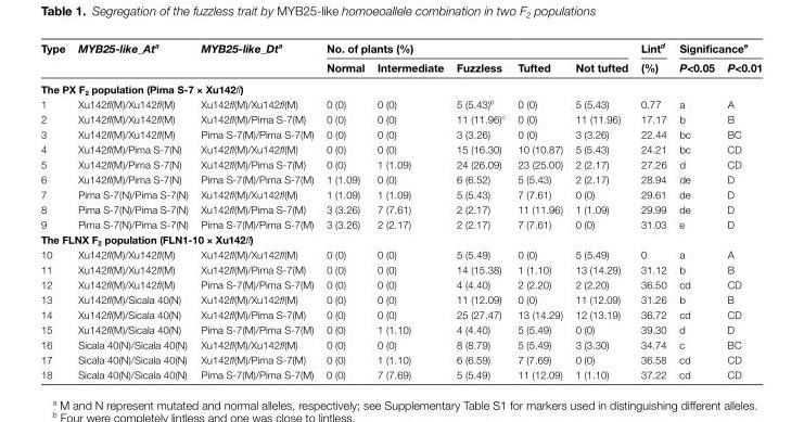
<table><thead><tr><td rowspan="2">Type</td><td rowspan="2">MYB25-like_At<sup>a</sup></td><td rowspan="2">MYB25-like_Dt<sup>a</sup></td><td colspan="5">No. of plants (%)</td><td rowspan="2">Lint<sup>d</sup> (%)</td><td colspan="2">Significance<sup>e</sup></td></tr><tr><td>Normal</td><td>Intermediate</td><td>Fuzzless</td><td>Tufted</td><td>Not tufted</td><td>P&lt;0.05</td><td>P&lt;0.01</td></tr></thead><tbody><tr><td colspan="11">The PX F<sub>2</sub> population (Pima S-7 × Xu142fl)</td></tr><tr><td>1</td><td>Xu142fl(M)/Xu142fl(M)</td><td>Xu142fl(M)/Xu142fl(M)</td><td>0 (0)</td><td>0 (0)</td><td>5 (5.43)<sup>b</sup></td><td>0 (0)</td><td>5 (5.43)</td><td>0.77</td><td>a</td><td>A</td></tr><tr><td>2</td><td>Xu142fl(M)/Xu142fl(M)</td><td>Xu142fl(M)/Pima S-7(M)</td><td>0 (0)</td><td>0 (0)</td><td>11 (11.96)<sup>c</sup></td><td>0 (0)</td><td>11 (11.96)</td><td>17.17</td><td>b</td><td>B</td></tr><tr><td>3</td><td>Xu142fl(M)/Xu142fl(M)</td><td>Pima S-7(M)/Pima S-7(M)</td><td>0 (0)</td><td>0 (0)</td><td>3 (3.26)</td><td>0 (0)</td><td>3 (3.26)</td><td>22.44</td><td>bc</td><td>BC</td></tr><tr><td>4</td><td>Xu142fl(M)/Pima S-7(N)</td><td>Xu142fl(M)/Xu142fl(M)</td><td>0 (0)</td><td>0 (0)</td><td>15 (16.30)</td><td>10 (10.87)</td><td>5 (5.43)</td><td>24.21</td><td>bc</td><td>CD</td></tr><tr><td>5</td><td>Xu142fl(M)/Pima S-7(N)</td><td>Xu142fl(M)/Pima S-7(M)</td><td>0 (0)</td><td>1 (1.09)</td><td>24 (26.09)</td><td>23 (25.00)</td><td>2 (2.17)</td><td>27.26</td><td>d</td><td>CD</td></tr><tr><td>6</td><td>Xu142fl(M)/Pima S-7(N)</td><td>Pima S-7(M)/Pima S-7(M)</td><td>1 (1.09)</td><td>0 (0)</td><td>6 (6.52)</td><td>5 (5.43)</td><td>2 (2.17)</td><td>28.94</td><td>de</td><td>D</td></tr><tr><td>7</td><td>Pima S-7(N)/Pima S-7(N)</td><td>Xu142fl(M)/Xu142fl(M)</td><td>1 (1.09)</td><td>1 (1.09)</td><td>5 (5.43)</td><td>7 (7.61)</td><td>0 (0)</td><td>29.61</td><td>de</td><td>D</td></tr><tr><td>8</td><td>Pima S-7(N)/Pima S-7(N)</td><td>Xu142fl(M)/Pima S-7(M)</td><td>3 (3.26)</td><td>7 (7.61)</td><td>2 (2.17)</td><td>11 (11.96)</td><td>1 (1.09)</td><td>29.99</td><td>de</td><td>D</td></tr><tr><td>9</td><td>Pima S-7(N)/Pima S-7(N)</td><td>Pima S-7(M)/Pima S-7(M)</td><td>3 (3.26)</td><td>2 (2.17)</td><td>2 (2.17)</td><td>7 (7.61)</td><td>0 (0)</td><td>31.03</td><td>e</td><td>D</td></tr><tr><td colspan="11">The FLNX F<sub>2</sub> population (FLN1-10 × Xu142fl)</td></tr><tr><td>10</td><td>Xu142fl(M)/Xu142fl(M)</td><td>Xu142fl(M)/Xu142fl(M)</td><td>0 (0)</td><td>0 (0)</td><td>5 (5.49)</td><td>0 (0)</td><td>5 (5.49)</td><td>0</td><td>a</td><td>A</td></tr><tr><td>11</td><td>Xu142fl(M)/Xu142fl(M)</td><td>Xu142fl(M)/Pima S-7(M)</td><td>0 (0)</td><td>0 (0)</td><td>14 (15.38)</td><td>1 (1.10)</td><td>13 (14.29)</td><td>31.12</td><td>b</td><td>B</td></tr><tr><td>12</td><td>Xu142fl(M)/Xu142fl(M)</td><td>Pima S-7(M)/Pima S-7(M)</td><td>0 (0)</td><td>0 (0)</td><td>4 (4.40)</td><td>2 (2.20)</td><td>2 (2.20)</td><td>36.50</td><td>cd</td><td>CD</td></tr><tr><td>13</td><td>Xu142fl(M)/Sicala 40(N)</td><td>Xu142fl(M)/Xu142fl(M)</td><td>0 (0)</td><td>0 (0)</td><td>11 (12.09)</td><td>0 (0)</td><td>11 (12.09)</td><td>31.26</td><td>b</td><td>B</td></tr><tr><td>14</td><td>Xu142fl(M)/Sicala 40(N)</td><td>Xu142fl(M)/Pima S-7(M)</td><td>0 (0)</td><td>0 (0)</td><td>25 (27.47)</td><td>13 (14.29)</td><td>12 (13.19)</td><td>36.72</td><td>cd</td><td>CD</td></tr><tr><td>15</td><td>Xu142fl(M)/Sicala 40(N)</td><td>Pima S-7(M)/Pima S-7(M)</td><td>0 (0)</td><td>1 (1.10)</td><td>4 (4.40)</td><td>5 (5.49)</td><td>0 (0)</td><td>39.30</td><td>d</td><td>D</td></tr><tr><td>16</td><td>Sicala 40(N)/Sicala 40(N)</td><td>Xu142fl(M)/Xu142fl(M)</td><td>0 (0)</td><td>0 (0)</td><td>8 (8.79)</td><td>5 (5.49)</td><td>3 (3.30)</td><td>34.74</td><td>c</td><td>BC</td></tr><tr><td>17</td><td>Sicala 40(N)/Sicala 40(N)</td><td>Xu142fl(M)/Pima S-7(M)</td><td>0 (0)</td><td>1 (1.10)</td><td>6 (6.59)</td><td>7 (7.69)</td><td>0 (0)</td><td>36.58</td><td>cd</td><td>CD</td></tr><tr><td>18</td><td>Sicala 40(N)/Sicala 40(N)</td><td>Pima S-7(M)/Pima S-7(M)</td><td>0 (0)</td><td>7 (7.69)</td><td>5 (5.49)</td><td>11 (12.09)</td><td>1 (1.10)</td><td>37.22</td><td>cd</td><td>CD</td></tr></tbody></table>